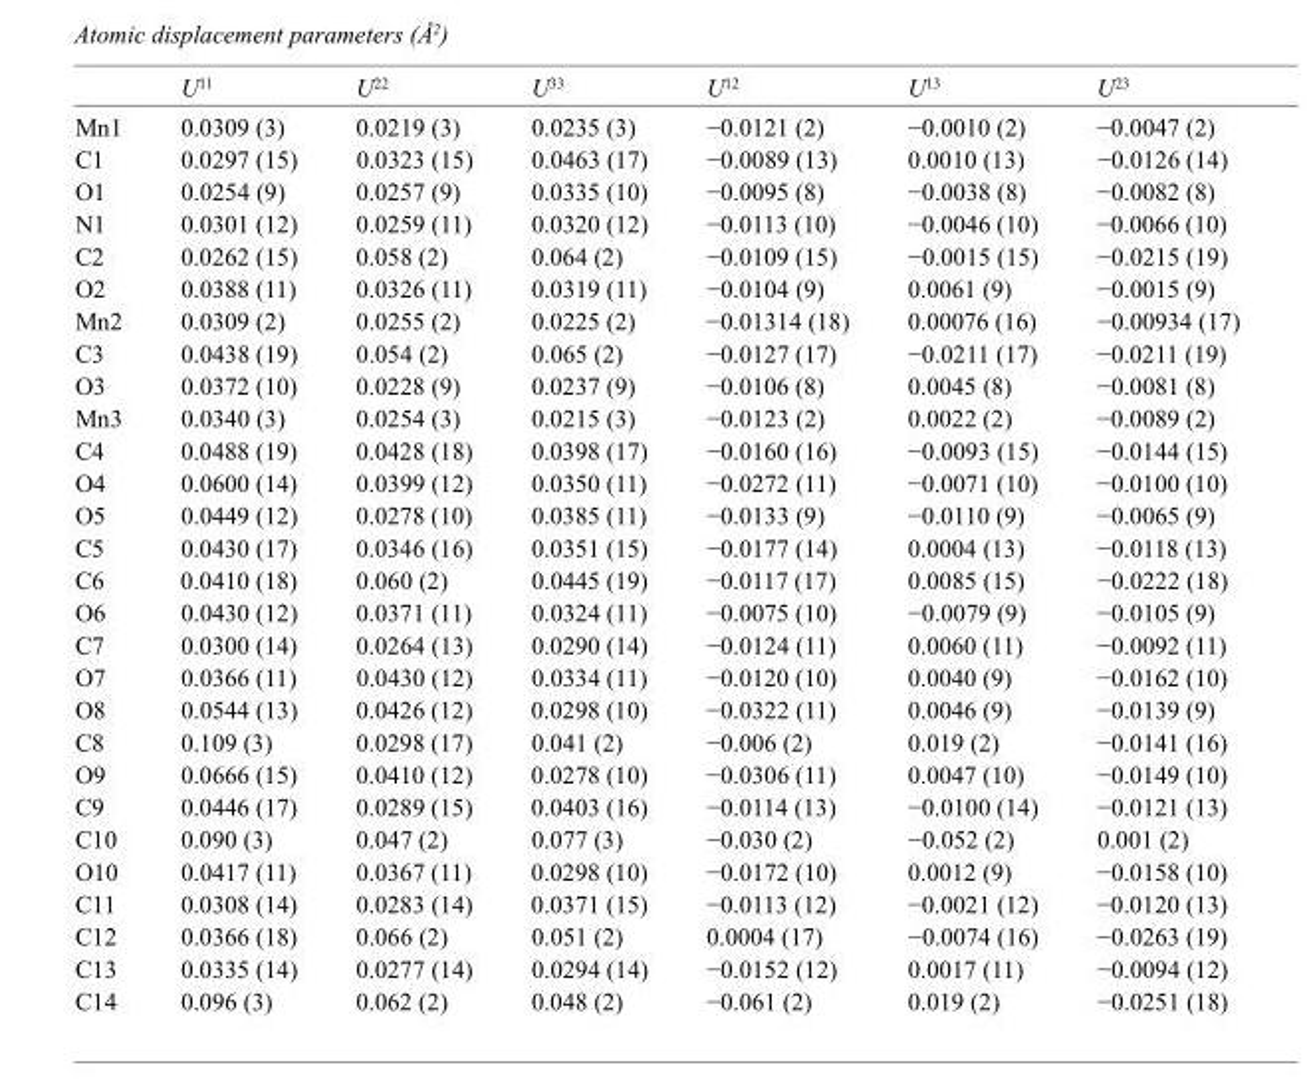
<table><thead><tr><td></td><td>U<sup>11</sup></td><td>U<sup>22</sup></td><td>U<sup>33</sup></td><td>U<sup>12</sup></td><td>U<sup>13</sup></td><td>U<sup>23</sup></td></tr></thead><tbody><tr><td>Mn1</td><td>0.0309 (3)</td><td>0.0219 (3)</td><td>0.0235 (3)</td><td>−0.0121 (2)</td><td>−0.0010 (2)</td><td>−0.0047 (2)</td></tr><tr><td>C1</td><td>0.0297 (15)</td><td>0.0323 (15)</td><td>0.0463 (17)</td><td>−0.0089 (13)</td><td>0.0010 (13)</td><td>−0.0126 (14)</td></tr><tr><td>O1</td><td>0.0254 (9)</td><td>0.0257 (9)</td><td>0.0335 (10)</td><td>−0.0095 (8)</td><td>−0.0038 (8)</td><td>−0.0082 (8)</td></tr><tr><td>N1</td><td>0.0301 (12)</td><td>0.0259 (11)</td><td>0.0320 (12)</td><td>−0.0113 (10)</td><td>−0.0046 (10)</td><td>−0.0066 (10)</td></tr><tr><td>C2</td><td>0.0262 (15)</td><td>0.058 (2)</td><td>0.064 (2)</td><td>−0.0109 (15)</td><td>−0.0015 (15)</td><td>−0.0215 (19)</td></tr><tr><td>O2</td><td>0.0388 (11)</td><td>0.0326 (11)</td><td>0.0319 (11)</td><td>−0.0104 (9)</td><td>0.0061 (9)</td><td>−0.0015 (9)</td></tr><tr><td>Mn2</td><td>0.0309 (2)</td><td>0.0255 (2)</td><td>0.0225 (2)</td><td>−0.01314 (18)</td><td>0.00076 (16)</td><td>−0.00934 (17)</td></tr><tr><td>C3</td><td>0.0438 (19)</td><td>0.054 (2)</td><td>0.065 (2)</td><td>−0.0127 (17)</td><td>−0.0211 (17)</td><td>−0.0211 (19)</td></tr><tr><td>O3</td><td>0.0372 (10)</td><td>0.0228 (9)</td><td>0.0237 (9)</td><td>−0.0106 (8)</td><td>0.0045 (8)</td><td>−0.0081 (8)</td></tr><tr><td>Mn3</td><td>0.0340 (3)</td><td>0.0254 (3)</td><td>0.0215 (3)</td><td>−0.0123 (2)</td><td>0.0022 (2)</td><td>−0.0089 (2)</td></tr><tr><td>C4</td><td>0.0488 (19)</td><td>0.0428 (18)</td><td>0.0398 (17)</td><td>−0.0160 (16)</td><td>−0.0093 (15)</td><td>−0.0144 (15)</td></tr><tr><td>O4</td><td>0.0600 (14)</td><td>0.0399 (12)</td><td>0.0350 (11)</td><td>−0.0272 (11)</td><td>−0.0071 (10)</td><td>−0.0100 (10)</td></tr><tr><td>O5</td><td>0.0449 (12)</td><td>0.0278 (10)</td><td>0.0385 (11)</td><td>−0.0133 (9)</td><td>−0.0110 (9)</td><td>−0.0065 (9)</td></tr><tr><td>C5</td><td>0.0430 (17)</td><td>0.0346 (16)</td><td>0.0351 (15)</td><td>−0.0177 (14)</td><td>0.0004 (13)</td><td>−0.0118 (13)</td></tr><tr><td>C6</td><td>0.0410 (18)</td><td>0.060 (2)</td><td>0.0445 (19)</td><td>−0.0117 (17)</td><td>0.0085 (15)</td><td>−0.0222 (18)</td></tr><tr><td>O6</td><td>0.0430 (12)</td><td>0.0371 (11)</td><td>0.0324 (11)</td><td>−0.0075 (10)</td><td>−0.0079 (9)</td><td>−0.0105 (9)</td></tr><tr><td>C7</td><td>0.0300 (14)</td><td>0.0264 (13)</td><td>0.0290 (14)</td><td>−0.0124 (11)</td><td>0.0060 (11)</td><td>−0.0092 (11)</td></tr><tr><td>O7</td><td>0.0366 (11)</td><td>0.0430 (12)</td><td>0.0334 (11)</td><td>−0.0120 (10)</td><td>0.0040 (9)</td><td>−0.0162 (10)</td></tr><tr><td>O8</td><td>0.0544 (13)</td><td>0.0426 (12)</td><td>0.0298 (10)</td><td>−0.0322 (11)</td><td>0.0046 (9)</td><td>−0.0139 (9)</td></tr><tr><td>C8</td><td>0.109 (3)</td><td>0.0298 (17)</td><td>0.041 (2)</td><td>−0.006 (2)</td><td>0.019 (2)</td><td>−0.0141 (16)</td></tr><tr><td>O9</td><td>0.0666 (15)</td><td>0.0410 (12)</td><td>0.0278 (10)</td><td>−0.0306 (11)</td><td>0.0047 (10)</td><td>−0.0149 (10)</td></tr><tr><td>C9</td><td>0.0446 (17)</td><td>0.0289 (15)</td><td>0.0403 (16)</td><td>−0.0114 (13)</td><td>−0.0100 (14)</td><td>−0.0121 (13)</td></tr><tr><td>C10</td><td>0.090 (3)</td><td>0.047 (2)</td><td>0.077 (3)</td><td>−0.030 (2)</td><td>−0.052 (2)</td><td>0.001 (2)</td></tr><tr><td>O10</td><td>0.0417 (11)</td><td>0.0367 (11)</td><td>0.0298 (10)</td><td>−0.0172 (10)</td><td>0.0012 (9)</td><td>−0.0158 (10)</td></tr><tr><td>C11</td><td>0.0308 (14)</td><td>0.0283 (14)</td><td>0.0371 (15)</td><td>−0.0113 (12)</td><td>−0.0021 (12)</td><td>−0.0120 (13)</td></tr><tr><td>C12</td><td>0.0366 (18)</td><td>0.066 (2)</td><td>0.051 (2)</td><td>0.0004 (17)</td><td>−0.0074 (16)</td><td>−0.0263 (19)</td></tr><tr><td>C13</td><td>0.0335 (14)</td><td>0.0277 (14)</td><td>0.0294 (14)</td><td>−0.0152 (12)</td><td>0.0017 (11)</td><td>−0.0094 (12)</td></tr><tr><td>C14</td><td>0.096 (3)</td><td>0.062 (2)</td><td>0.048 (2)</td><td>−0.061 (2)</td><td>0.019 (2)</td><td>−0.0251 (18)</td></tr></tbody></table>